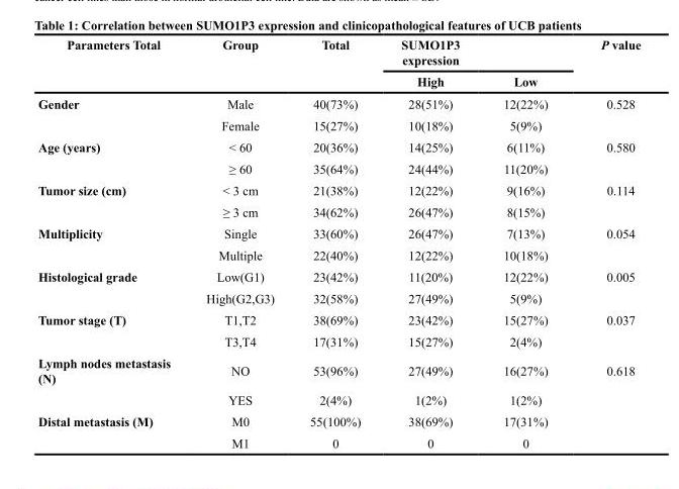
<table><thead><tr><td rowspan="2">Parameters Total</td><td rowspan="2">Group</td><td rowspan="2">Total</td><td colspan="2">SUMO1P3 expression</td><td rowspan="2">P value</td></tr><tr><td>High</td><td>Low</td></tr></thead><tbody><tr><td rowspan="2">Gender</td><td>Male</td><td>40(73%)</td><td>28(51%)</td><td>12(22%)</td><td>0.528</td></tr><tr><td>Female</td><td>15(27%)</td><td>10(18%)</td><td>5(9%)</td><td></td></tr><tr><td rowspan="2">Age (years)</td><td>&lt; 60</td><td>20(36%)</td><td>14(25%)</td><td>6(11%)</td><td>0.580</td></tr><tr><td>≥ 60</td><td>35(64%)</td><td>24(44%)</td><td>11(20%)</td><td></td></tr><tr><td rowspan="2">Tumor size (cm)</td><td>&lt; 3 cm</td><td>21(38%)</td><td>12(22%)</td><td>9(16%)</td><td>0.114</td></tr><tr><td>≥ 3 cm</td><td>34(62%)</td><td>26(47%)</td><td>8(15%)</td><td></td></tr><tr><td rowspan="2">Multiplicity</td><td>Single</td><td>33(60%)</td><td>26(47%)</td><td>7(13%)</td><td>0.054</td></tr><tr><td>Multiple</td><td>22(40%)</td><td>12(22%)</td><td>10(18%)</td><td></td></tr><tr><td rowspan="2">Histological grade</td><td>Low(G1)</td><td>23(42%)</td><td>11(20%)</td><td>12(22%)</td><td>0.005</td></tr><tr><td>High(G2,G3)</td><td>32(58%)</td><td>27(49%)</td><td>5(9%)</td><td></td></tr><tr><td rowspan="2">Tumor stage (T)</td><td>T1,T2</td><td>38(69%)</td><td>23(42%)</td><td>15(27%)</td><td>0.037</td></tr><tr><td>T3,T4</td><td>17(31%)</td><td>15(27%)</td><td>2(4%)</td><td></td></tr><tr><td rowspan="2">Lymph nodes metastasis (N)</td><td>NO</td><td>53(96%)</td><td>27(49%)</td><td>16(27%)</td><td>0.618</td></tr><tr><td>YES</td><td>2(4%)</td><td>1(2%)</td><td>1(2%)</td><td></td></tr><tr><td rowspan="2">Distal metastasis (M)</td><td>M0</td><td>55(100%)</td><td>38(69%)</td><td>17(31%)</td><td></td></tr><tr><td>M1</td><td>0</td><td>0</td><td>0</td><td></td></tr></tbody></table>